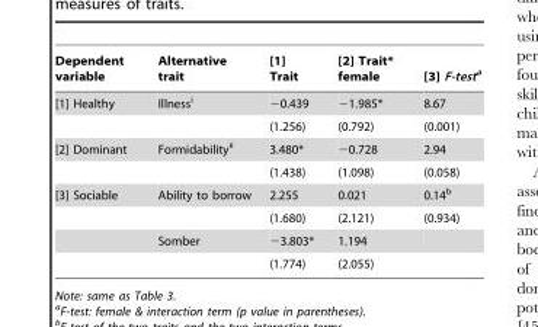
<table><thead><tr><td>Dependent variable</td><td>Alternative trait</td><td>[1] Trait</td><td>[2] Trait* female</td><td>[3] F-testa</td></tr></thead><tbody><tr><td rowspan="2">[1] Healthy</td><td>Illness<sup>i</sup></td><td>−0.439</td><td>−1.985*</td><td>8.67</td></tr><tr><td></td><td>(1.256)</td><td>(0.792)</td><td>(0.001)</td></tr><tr><td rowspan="2">[2] Dominant</td><td>Formidability<sup>ii</sup></td><td>3.480*</td><td>−0.728</td><td>2.94</td></tr><tr><td></td><td>(1.438)</td><td>(1.098)</td><td>(0.058)</td></tr><tr><td rowspan="4">[3] Sociable</td><td>Ability to borrow</td><td>2.255</td><td>0.021</td><td>0.14<sup>b</sup></td></tr><tr><td></td><td>(1.680)</td><td>(2.121)</td><td>(0.934)</td></tr><tr><td>Somber</td><td>−3.803*</td><td>1.194</td><td></td></tr><tr><td></td><td>(1.774)</td><td>(2.055)</td><td></td></tr></tbody></table>